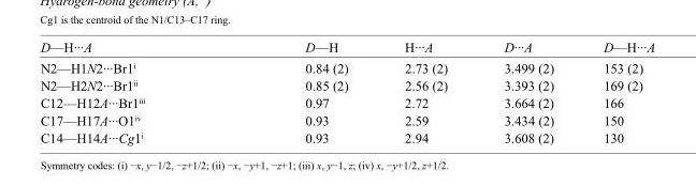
<table><tbody><tr><td>D—H···A</td><td>D—H</td><td>H···A</td><td>D···A</td><td>D—H···A</td></tr><tr><td>N2—H1N2···Br1<sup>i</sup></td><td>0.84 (2)</td><td>2.73 (2)</td><td>3.499 (2)</td><td>153 (2)</td></tr><tr><td>N2—H2N2···Br1<sup>ii</sup></td><td>0.85 (2)</td><td>2.56 (2)</td><td>3.393 (2)</td><td>169 (2)</td></tr><tr><td>C12—H12A···Br1<sup>iii</sup></td><td>0.97</td><td>2.72</td><td>3.664 (2)</td><td>166</td></tr><tr><td>C17—H17A···O1<sup>iv</sup></td><td>0.93</td><td>2.59</td><td>3.434 (2)</td><td>150</td></tr><tr><td>C14—H14A···Cg1<sup>i</sup></td><td>0.93</td><td>2.94</td><td>3.608 (2)</td><td>130</td></tr></tbody></table>